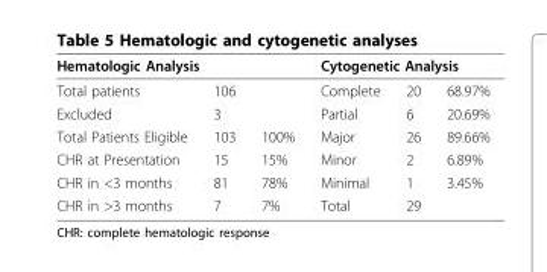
<table><thead><tr><td colspan="3">Hematologic Analysis</td><td colspan="3">Cytogenetic Analysis</td></tr><tr><td>Total patients</td><td>106</td><td></td><td>Complete</td><td>20</td><td>68.97%</td></tr></thead><tbody><tr><td>Excluded</td><td>3</td><td></td><td>Partial</td><td>6</td><td>20.69%</td></tr><tr><td>Total Patients Eligible</td><td>103</td><td>100%</td><td>Major</td><td>26</td><td>89.66%</td></tr><tr><td>CHR at Presentation</td><td>15</td><td>15%</td><td>Minor</td><td>2</td><td>6.89%</td></tr><tr><td>CHR in &lt;3 months</td><td>81</td><td>78%</td><td>Minimal</td><td>1</td><td>3.45%</td></tr><tr><td>CHR in &gt;3 months</td><td>7</td><td>7%</td><td>Total</td><td>29</td><td></td></tr></tbody></table>